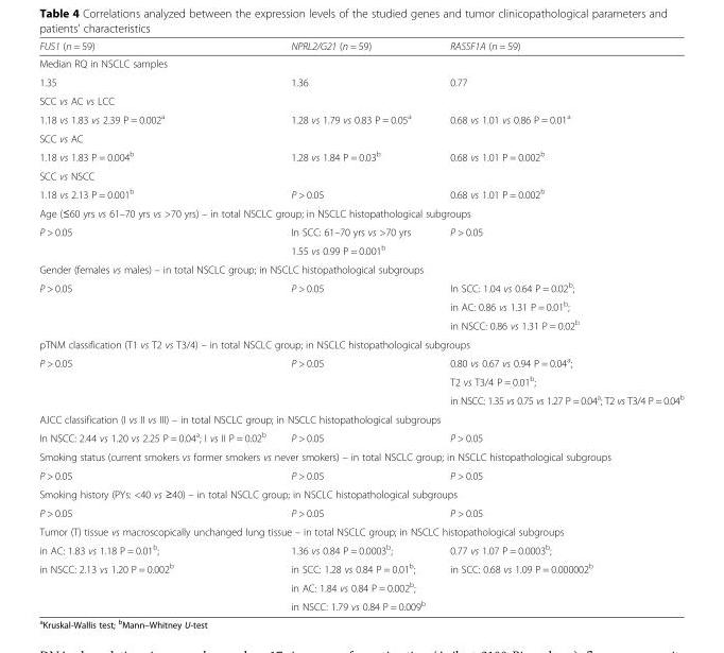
<table><thead><tr><td>FUS1 (n = 59)</td><td>NPRL2/G21 (n = 59)</td><td>RASSF1A (n = 59)</td></tr></thead><tbody><tr><td colspan="3">Median RQ in NSCLC samples</td></tr><tr><td>1.35</td><td>1.36</td><td>0.77</td></tr><tr><td colspan="3">SCC vs AC vs LCC</td></tr><tr><td>1.18 vs 1.83 vs 2.39 P = 0.002<sup>a</sup></td><td>1.28 vs 1.79 vs 0.83 P = 0.05<sup>a</sup></td><td>0.68 vs 1.01 vs 0.86 P = 0.01<sup>a</sup></td></tr><tr><td colspan="3">SCC vs AC</td></tr><tr><td>1.18 vs 1.83 P = 0.004<sup>b</sup></td><td>1.28 vs 1.84 P = 0.03<sup>b</sup></td><td>0.68 vs 1.01 P = 0.002<sup>b</sup></td></tr><tr><td colspan="3">SCC vs NSCC</td></tr><tr><td>1.18 vs 2.13 P = 0.001<sup>b</sup></td><td>P &gt; 0.05</td><td>0.68 vs 1.01 P = 0.002<sup>b</sup></td></tr><tr><td colspan="3">Age (≤60 yrs vs 61–70 yrs vs &gt;70 yrs) – in total NSCLC group; in NSCLC histopathological subgroups</td></tr><tr><td rowspan="2">P &gt; 0.05</td><td>In SCC: 61–70 yrs vs &gt;70 yrs</td><td rowspan="2">P &gt; 0.05</td></tr><tr><td>1.55 vs 0.99 P = 0.001<sup>b</sup></td></tr><tr><td colspan="3">Gender (females vs males) – in total NSCLC group; in NSCLC histopathological subgroups</td></tr><tr><td rowspan="3">P &gt; 0.05</td><td rowspan="3">P &gt; 0.05</td><td>In SCC: 1.04 vs 0.64 P = 0.02<sup>b</sup>;</td></tr><tr><td>in AC: 0.86 vs 1.31 P = 0.01<sup>b</sup>;</td></tr><tr><td>in NSCC: 0.86 vs 1.31 P = 0.02<sup>b</sup></td></tr><tr><td colspan="3">pTNM classification (T1 vs T2 vs T3/4) – in total NSCLC group; in NSCLC histopathological subgroups</td></tr><tr><td rowspan="3">P &gt; 0.05</td><td rowspan="3">P &gt; 0.05</td><td>0.80 vs 0.67 vs 0.94 P = 0.04<sup>a</sup>;</td></tr><tr><td>T2 vs T3/4 P = 0.01<sup>b</sup>;</td></tr><tr><td>in NSCC: 1.35 vs 0.75 vs 1.27 P = 0.04<sup>a</sup>; T2 vs T3/4 P = 0.04<sup>b</sup></td></tr><tr><td colspan="3">AJCC classification (I vs II vs III) – in total NSCLC group; in NSCLC histopathological subgroups</td></tr><tr><td>In NSCC: 2.44 vs 1.20 vs 2.25 P = 0.04<sup>a</sup>; I vs II P = 0.02<sup>b</sup></td><td>P &gt; 0.05</td><td>P &gt; 0.05</td></tr><tr><td colspan="3">Smoking status (current smokers vs former smokers vs never smokers) – in total NSCLC group; in NSCLC histopathological subgroups</td></tr><tr><td>P &gt; 0.05</td><td>P &gt; 0.05</td><td>P &gt; 0.05</td></tr><tr><td colspan="3">Smoking history (PYs: &lt;40 vs ≥40) – in total NSCLC group; in NSCLC histopathological subgroups</td></tr><tr><td>P &gt; 0.05</td><td>P &gt; 0.05</td><td>P &gt; 0.05</td></tr><tr><td colspan="3">Tumor (T) tissue vs macroscopically unchanged lung tissue – in total NSCLC group; in NSCLC histopathological subgroups</td></tr><tr><td>in AC: 1.83 vs 1.18 P = 0.01<sup>b</sup>;</td><td>1.36 vs 0.84 P = 0.0003<sup>b</sup>;</td><td>0.77 vs 1.07 P = 0.0003<sup>b</sup>;</td></tr><tr><td rowspan="3">in NSCC: 2.13 vs 1.20 P = 0.002<sup>b</sup></td><td>in SCC: 1.28 vs 0.84 P = 0.01<sup>b</sup>;</td><td rowspan="3">in SCC: 0.68 vs 1.09 P = 0.000002<sup>b</sup></td></tr><tr><td>in AC: 1.84 vs 0.84 P = 0.002<sup>b</sup>;</td></tr><tr><td>in NSCC: 1.79 vs 0.84 P = 0.009<sup>b</sup></td></tr></tbody></table>